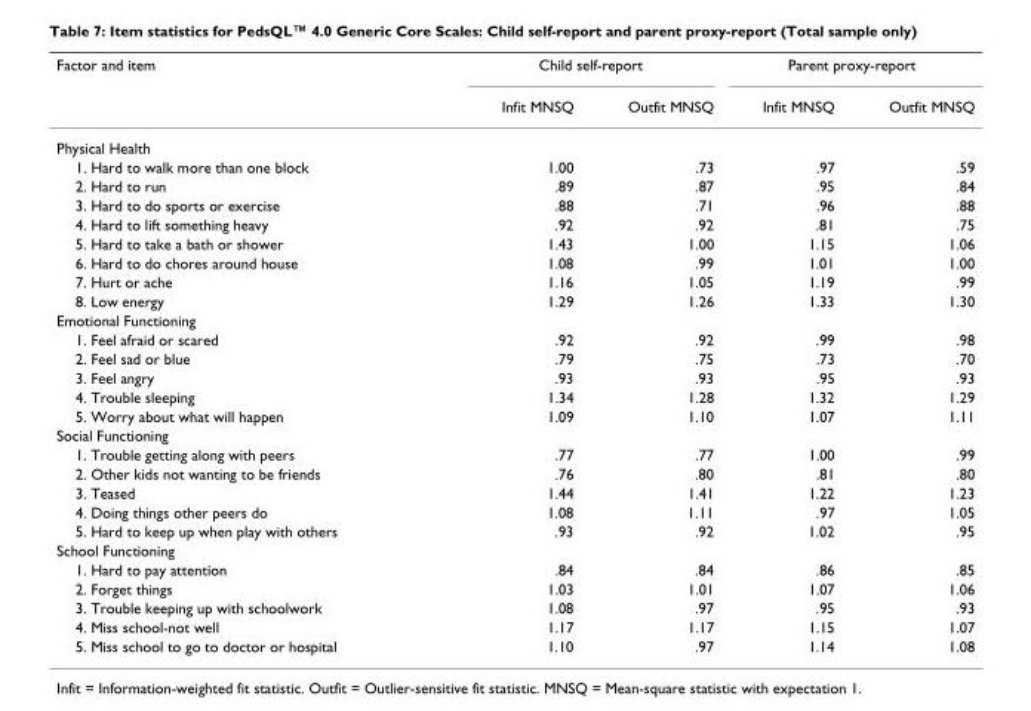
<table><thead><tr><td rowspan="2">Factor and item</td><td colspan="2">Child self-report</td><td colspan="2">Parent proxy-report</td></tr><tr><td>Infit MNSQ</td><td>Outfit MNSQ</td><td>Infit MNSQ</td><td>Outfit MNSQ</td></tr></thead><tbody><tr><td colspan="5">Physical Health</td></tr><tr><td>1. Hard to walk more than one block</td><td>1.00</td><td>.73</td><td>.97</td><td>.59</td></tr><tr><td>2. Hard to run</td><td>.89</td><td>.87</td><td>.95</td><td>.84</td></tr><tr><td>3. Hard to do sports or exercise</td><td>.88</td><td>.71</td><td>.96</td><td>.88</td></tr><tr><td>4. Hard to lift something heavy</td><td>.92</td><td>.92</td><td>.81</td><td>.75</td></tr><tr><td>5. Hard to take a bath or shower</td><td>1.43</td><td>1.00</td><td>1.15</td><td>1.06</td></tr><tr><td>6. Hard to do chores around house</td><td>1.08</td><td>.99</td><td>1.01</td><td>1.00</td></tr><tr><td>7. Hurt or ache</td><td>1.16</td><td>1.05</td><td>1.19</td><td>.99</td></tr><tr><td>8. Low energy</td><td>1.29</td><td>1.26</td><td>1.33</td><td>1.30</td></tr><tr><td colspan="5">Emotional Functioning</td></tr><tr><td>1. Feel afraid or scared</td><td>.92</td><td>.92</td><td>.99</td><td>.98</td></tr><tr><td>2. Feel sad or blue</td><td>.79</td><td>.75</td><td>.73</td><td>.70</td></tr><tr><td>3. Feel angry</td><td>.93</td><td>.93</td><td>.95</td><td>.93</td></tr><tr><td>4. Trouble sleeping</td><td>1.34</td><td>1.28</td><td>1.32</td><td>1.29</td></tr><tr><td>5. Worry about what will happen</td><td>1.09</td><td>1.10</td><td>1.07</td><td>1.11</td></tr><tr><td colspan="5">Social Functioning</td></tr><tr><td>1. Trouble getting along with peers</td><td>.77</td><td>.77</td><td>1.00</td><td>.99</td></tr><tr><td>2. Other kids not wanting to be friends</td><td>.76</td><td>.80</td><td>.81</td><td>.80</td></tr><tr><td>3. Teased</td><td>1.44</td><td>1.41</td><td>1.22</td><td>1.23</td></tr><tr><td>4. Doing things other peers do</td><td>1.08</td><td>1.11</td><td>.97</td><td>1.05</td></tr><tr><td>5. Hard to keep up when play with others</td><td>.93</td><td>.92</td><td>1.02</td><td>.95</td></tr><tr><td colspan="5">School Functioning</td></tr><tr><td>1. Hard to pay attention</td><td>.84</td><td>.84</td><td>.86</td><td>.85</td></tr><tr><td>2. Forget things</td><td>1.03</td><td>1.01</td><td>1.07</td><td>1.06</td></tr><tr><td>3. Trouble keeping up with schoolwork</td><td>1.08</td><td>.97</td><td>.95</td><td>.93</td></tr><tr><td>4. Miss school-not well</td><td>1.17</td><td>1.17</td><td>1.15</td><td>1.07</td></tr><tr><td>5. Miss school to go to doctor or hospital</td><td>1.10</td><td>.97</td><td>1.14</td><td>1.08</td></tr></tbody></table>